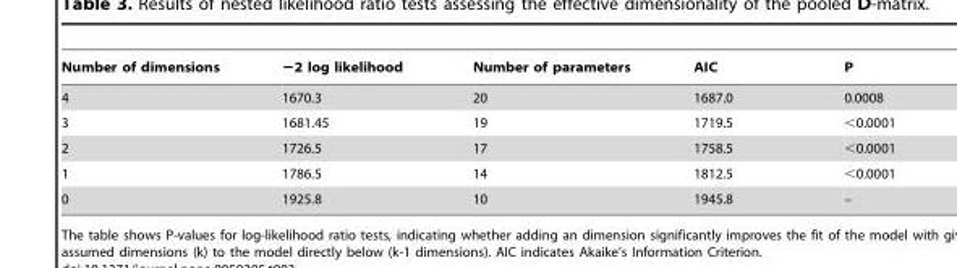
<table><thead><tr><td>Number of dimensions</td><td>−2 log likelihood</td><td>Number of parameters</td><td>AIC</td><td>P</td></tr></thead><tbody><tr><td>4</td><td>1670.3</td><td>20</td><td>1687.0</td><td>0.0008</td></tr><tr><td>3</td><td>1681.45</td><td>19</td><td>1719.5</td><td>&lt;0.0001</td></tr><tr><td>2</td><td>1726.5</td><td>17</td><td>1758.5</td><td>&lt;0.0001</td></tr><tr><td>1</td><td>1786.5</td><td>14</td><td>1812.5</td><td>&lt;0.0001</td></tr><tr><td>0</td><td>1925.8</td><td>10</td><td>1945.8</td><td>–</td></tr></tbody></table>